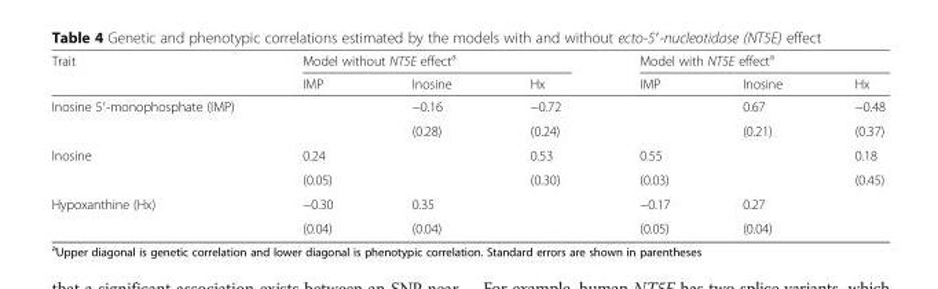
<table><thead><tr><td rowspan="2">Trait</td><td colspan="3">Model without NT5E effect<sup>a</sup></td><td colspan="3">Model with NT5E effect<sup>a</sup></td></tr><tr><td>IMP</td><td>Inosine</td><td>Hx</td><td>IMP</td><td>Inosine</td><td>Hx</td></tr></thead><tbody><tr><td rowspan="2">Inosine 5′-monophosphate (IMP)</td><td></td><td>−0.16</td><td>−0.72</td><td></td><td>0.67</td><td>−0.48</td></tr><tr><td></td><td>(0.28)</td><td>(0.24)</td><td></td><td>(0.21)</td><td>(0.37)</td></tr><tr><td rowspan="2">Inosine</td><td>0.24</td><td></td><td>0.53</td><td>0.55</td><td></td><td>0.18</td></tr><tr><td>(0.05)</td><td></td><td>(0.30)</td><td>(0.03)</td><td></td><td>(0.45)</td></tr><tr><td rowspan="2">Hypoxanthine (Hx)</td><td>−0.30</td><td>0.35</td><td></td><td>−0.17</td><td>0.27</td><td></td></tr><tr><td>(0.04)</td><td>(0.04)</td><td></td><td>(0.05)</td><td>(0.04)</td><td></td></tr></tbody></table>